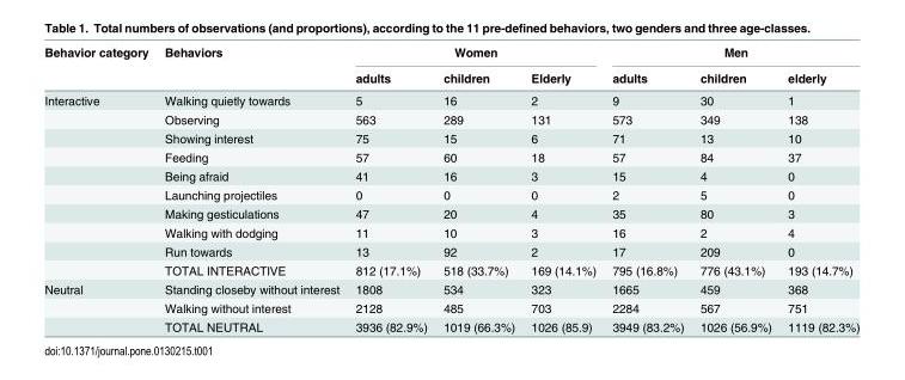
<table><thead><tr><td rowspan="2">Behavior category</td><td rowspan="2">Behaviors</td><td colspan="3">Women</td><td colspan="3">Men</td></tr><tr><td>adults</td><td>children</td><td>Elderly</td><td>adults</td><td>children</td><td>elderly</td></tr></thead><tbody><tr><td rowspan="10">Interactive</td><td>Walking quietly towards</td><td>5</td><td>16</td><td>2</td><td>9</td><td>30</td><td>1</td></tr><tr><td>Observing</td><td>563</td><td>289</td><td>131</td><td>573</td><td>349</td><td>138</td></tr><tr><td>Showing interest</td><td>75</td><td>15</td><td>6</td><td>71</td><td>13</td><td>10</td></tr><tr><td>Feeding</td><td>57</td><td>60</td><td>18</td><td>57</td><td>84</td><td>37</td></tr><tr><td>Being afraid</td><td>41</td><td>16</td><td>3</td><td>15</td><td>4</td><td>0</td></tr><tr><td>Launching projectiles</td><td>0</td><td>0</td><td>0</td><td>2</td><td>5</td><td>0</td></tr><tr><td>Making gesticulations</td><td>47</td><td>20</td><td>4</td><td>35</td><td>80</td><td>3</td></tr><tr><td>Walking with dodging</td><td>11</td><td>10</td><td>3</td><td>16</td><td>2</td><td>4</td></tr><tr><td>Run towards</td><td>13</td><td>92</td><td>2</td><td>17</td><td>209</td><td>0</td></tr><tr><td>TOTAL INTERACTIVE</td><td>812 (17.1%)</td><td>518 (33.7%)</td><td>169 (14.1%)</td><td>795 (16.8%)</td><td>776 (43.1%)</td><td>193 (14.7%)</td></tr><tr><td rowspan="3">Neutral</td><td>Standing closeby without interest</td><td>1808</td><td>534</td><td>323</td><td>1665</td><td>459</td><td>368</td></tr><tr><td>Walking without interest</td><td>2128</td><td>485</td><td>703</td><td>2284</td><td>567</td><td>751</td></tr><tr><td>TOTAL NEUTRAL</td><td>3936 (82.9%)</td><td>1019 (66.3%)</td><td>1026 (85.9)</td><td>3949 (83.2%)</td><td>1026 (56.9%)</td><td>1119 (82.3%)</td></tr></tbody></table>